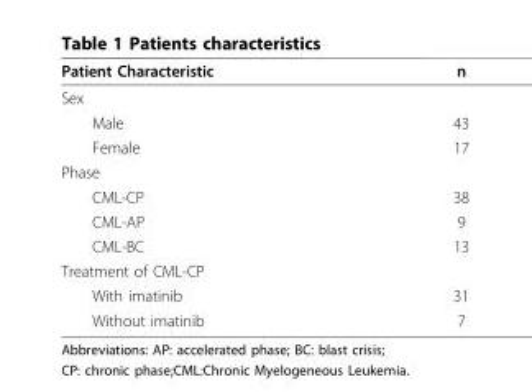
<table><thead><tr><td>Patient Characteristic</td><td>n</td></tr></thead><tbody><tr><td colspan="2">Sex</td></tr><tr><td>Male</td><td>43</td></tr><tr><td>Female</td><td>17</td></tr><tr><td colspan="2">Phase</td></tr><tr><td>CML-CP</td><td>38</td></tr><tr><td>CML-AP</td><td>9</td></tr><tr><td>CML-BC</td><td>13</td></tr><tr><td colspan="2">Treatment of CML-CP</td></tr><tr><td>With imatinib</td><td>31</td></tr><tr><td>Without imatinib</td><td>7</td></tr></tbody></table>